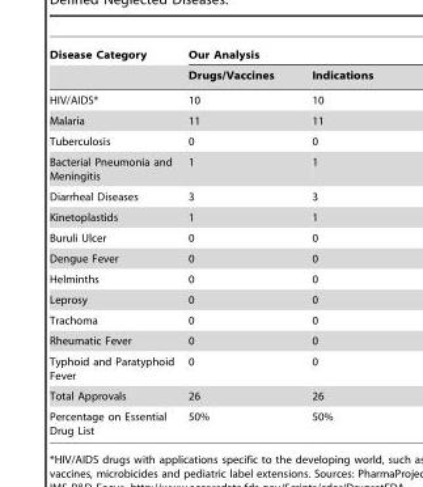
<table><thead><tr><td rowspan="2">Disease Category</td><td colspan="2">Our Analysis</td></tr><tr><td>Drugs/Vaccines</td><td>Indications</td></tr></thead><tbody><tr><td>HIV/AIDS*</td><td>10</td><td>10</td></tr><tr><td>Malaria</td><td>11</td><td>11</td></tr><tr><td>Tuberculosis</td><td>0</td><td>0</td></tr><tr><td>Bacterial Pneumonia and Meningitis</td><td>1</td><td>1</td></tr><tr><td>Diarrheal Diseases</td><td>3</td><td>3</td></tr><tr><td>Kinetoplastids</td><td>1</td><td>1</td></tr><tr><td>Buruli Ulcer</td><td>0</td><td>0</td></tr><tr><td>Dengue Fever</td><td>0</td><td>0</td></tr><tr><td>Helminths</td><td>0</td><td>0</td></tr><tr><td>Leprosy</td><td>0</td><td>0</td></tr><tr><td>Trachoma</td><td>0</td><td>0</td></tr><tr><td>Rheumatic Fever</td><td>0</td><td>0</td></tr><tr><td>Typhoid and Paratyphoid Fever</td><td>0</td><td>0</td></tr><tr><td>Total Approvals</td><td>26</td><td>26</td></tr><tr><td>Percentage on Essential Drug List</td><td>50%</td><td>50%</td></tr></tbody></table>